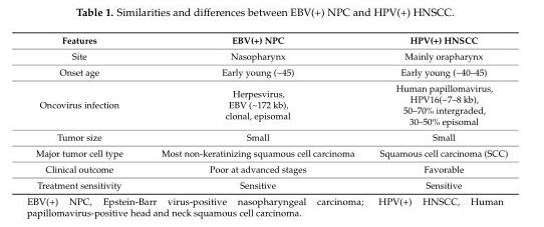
<table><thead><tr><td>Features</td><td>EBV(+) NPC</td><td>HPV(+) HNSCC</td></tr></thead><tbody><tr><td>Site</td><td>Nasopharynx</td><td>Mainly orapharynx</td></tr><tr><td>Onset age</td><td>Early young (~45)</td><td>Early young (~40–45)</td></tr><tr><td>Oncovirus infection</td><td>Herpesvirus, EBV (~172 kb), clonal, episomal</td><td>Human papillomavirus, HPV16(~7–8 kb), 50–70% intergraded, 30–50% episomal</td></tr><tr><td>Tumor size</td><td>Small</td><td>Small</td></tr><tr><td>Major tumor cell type</td><td>Most non-keratinizing squamous cell carcinoma</td><td>Squamous cell carcinoma (SCC)</td></tr><tr><td>Clinical outcome</td><td>Poor at advanced stages</td><td>Favorable</td></tr><tr><td>Treatment sensitivity</td><td>Sensitive</td><td>Sensitive</td></tr></tbody></table>